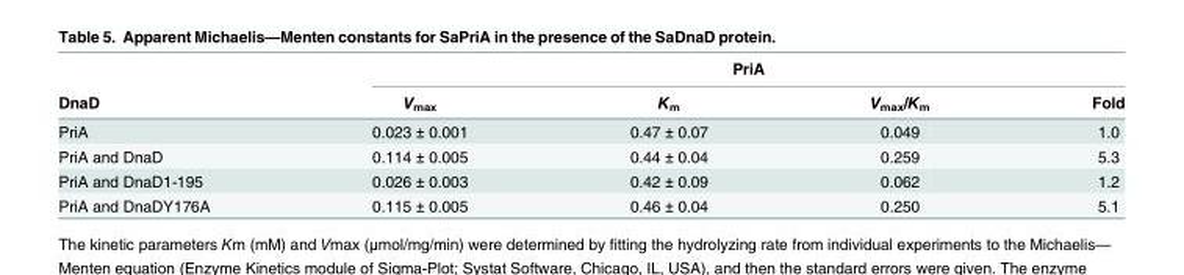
<table><thead><tr><td rowspan="2">DnaD</td><td colspan="4">PriA</td></tr><tr><td>V<sub>max</sub></td><td>K<sub>m</sub></td><td>V<sub>max</sub>/K<sub>m</sub></td><td>Fold</td></tr></thead><tbody><tr><td>PriA</td><td>0.023 ± 0.001</td><td>0.47 ± 0.07</td><td>0.049</td><td>1.0</td></tr><tr><td>PriA and DnaD</td><td>0.114 ± 0.005</td><td>0.44 ± 0.04</td><td>0.259</td><td>5.3</td></tr><tr><td>PriA and DnaD1-195</td><td>0.026 ± 0.003</td><td>0.42 ± 0.09</td><td>0.062</td><td>1.2</td></tr><tr><td>PriA and DnaDY176A</td><td>0.115 ± 0.005</td><td>0.46 ± 0.04</td><td>0.250</td><td>5.1</td></tr></tbody></table>